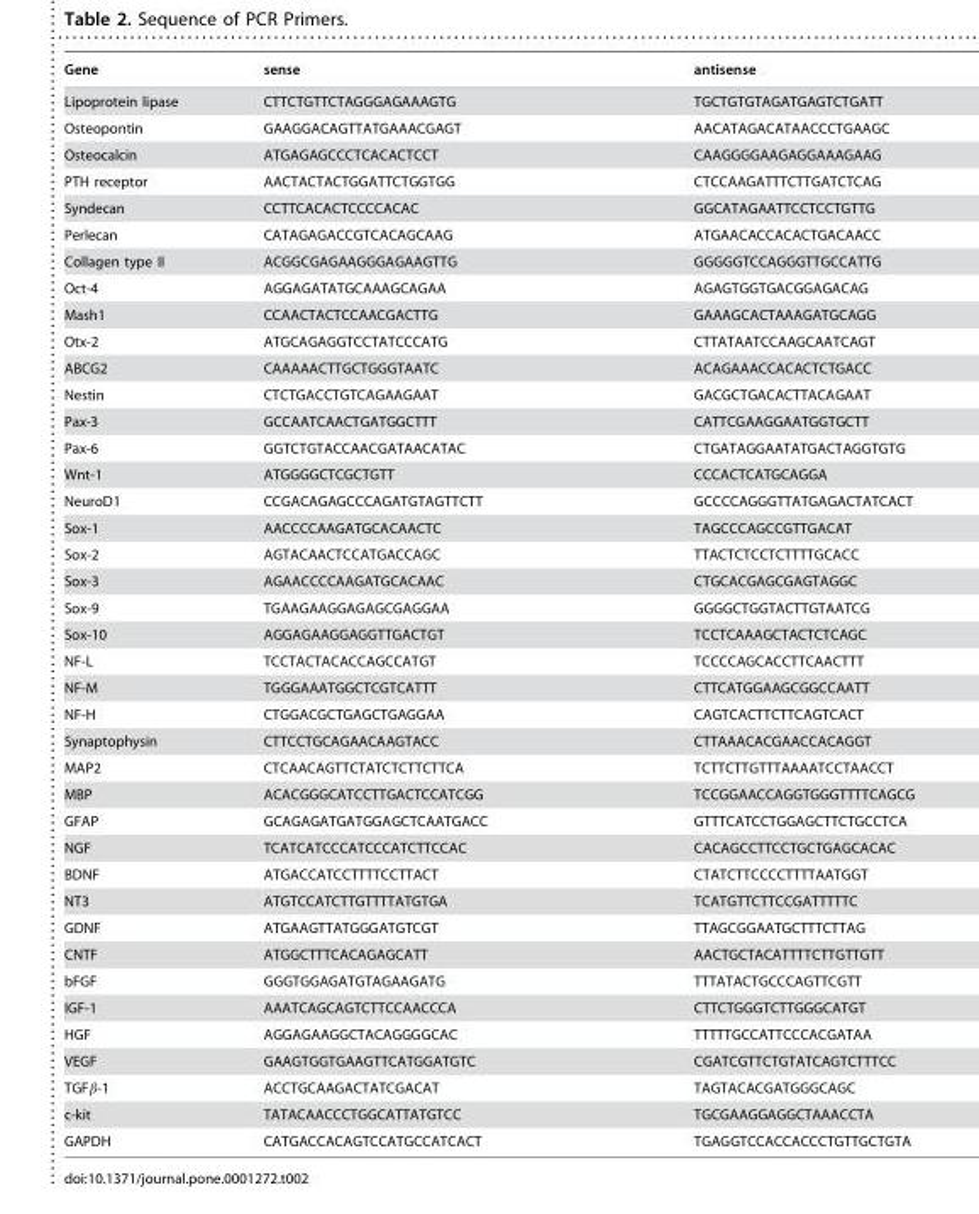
<table><thead><tr><td>Gene</td><td>sense</td><td>antisense</td></tr></thead><tbody><tr><td>Lipoprotein lipase</td><td>CTTCTGTTCTAGGGAGAAAGTG</td><td>TGCTGTGTAGATGAGTCTGATT</td></tr><tr><td>Osteopontin</td><td>GAAGGACAGTTATGAAACGAGT</td><td>AACATAGACATAACCCTGAAGC</td></tr><tr><td>Osteocalcin</td><td>ATGAGAGCCCTCACACTCCT</td><td>CAAGGGGAAGAGGAAAGAAG</td></tr><tr><td>PTH receptor</td><td>AACTACTACTGGATTCTGGTGG</td><td>CTCCAAGATTTCTTGATCTCAG</td></tr><tr><td>Syndecan</td><td>CCTTCACACTCCCCACAC</td><td>GGCATAGAATTCCTCCTGTTG</td></tr><tr><td>Perlecan</td><td>CATAGAGACCGTCACAGCAAG</td><td>ATGAACACCACACTGACAACC</td></tr><tr><td>Collagen type II</td><td>ACGGCGAGAAGGGAGAAGTTG</td><td>GGGGGTCCAGGGTTGCCATTG</td></tr><tr><td>Oct-4</td><td>AGGAGATATGCAAAGCAGAA</td><td>AGAGTGGTGACGGAGACAG</td></tr><tr><td>Mash1</td><td>CCAACTACTCCAACGACTTG</td><td>GAAAGCACTAAAGATGCAGG</td></tr><tr><td>Otx-2</td><td>ATGCAGAGGTCCTATCCCATG</td><td>CTTATAATCCAAGCAATCAGT</td></tr><tr><td>ABCG2</td><td>CAAAAACTTGCTGGGTAATC</td><td>ACAGAAACCACACTCTGACC</td></tr><tr><td>Nestin</td><td>CTCTGACCTGTCAGAAGAAT</td><td>GACGCTGACACTTACAGAAT</td></tr><tr><td>Pax-3</td><td>GCCAATCAACTGATGGCTTT</td><td>CATTCGAAGGAATGGTGCTT</td></tr><tr><td>Pax-6</td><td>GGTCTGTACCAACGATAACATAC</td><td>CTGATAGGAATATGACTAGGTGTG</td></tr><tr><td>Wnt-1</td><td>ATGGGGCTCGCTGTT</td><td>CCCACTCATGCAGGA</td></tr><tr><td>NeuroD1</td><td>CCGACAGAGCCCAGATGTAGTTCTT</td><td>GCCCCAGGGTTATGAGACTATCACT</td></tr><tr><td>Sox-1</td><td>AACCCCAAGATGCACAACTC</td><td>TAGCCCAGCCGTTGACAT</td></tr><tr><td>Sox-2</td><td>AGTACAACTCCATGACCAGC</td><td>TTACTCTCCTCTTTTGCACC</td></tr><tr><td>Sox-3</td><td>AGAACCCCAAGATGCACAAC</td><td>CTGCACGAGCGAGTAGGC</td></tr><tr><td>Sox-9</td><td>TGAAGAAGGAGAGCGAGGAA</td><td>GGGGCTGGTACTTGTAATCG</td></tr><tr><td>Sox-10</td><td>AGGAGAAGGAGGTTGACTGT</td><td>TCCTCAAAGCTACTCTCAGC</td></tr><tr><td>NF-L</td><td>TCCTACTACACCAGCCATGT</td><td>TCCCCAGCACCTTCAACTTT</td></tr><tr><td>NF-M</td><td>TGGGAAATGGCTCGTCATTT</td><td>CTTCATGGAAGCGGCCAATT</td></tr><tr><td>NF-H</td><td>CTGGACGCTGAGCTGAGGAA</td><td>CAGTCACTTCTTCAGTCACT</td></tr><tr><td>Synaptophysin</td><td>CTTCCTGCAGAACAAGTACC</td><td>CTTAAACACGAACCACAGGT</td></tr><tr><td>MAP2</td><td>CTCAACAGTTCTATCTCTTCTTCA</td><td>TCTTCTTGTTTAAAATCCTAACCT</td></tr><tr><td>MBP</td><td>ACACGGGCATCCTTGACTCCATCGG</td><td>TCCGGAACCAGGTGGGTTTTCAGCG</td></tr><tr><td>GFAP</td><td>GCAGAGATGATGGAGCTCAATGACC</td><td>GTTTCATCCTGGAGCTTCTGCCTCA</td></tr><tr><td>NGF</td><td>TCATCATCCCATCCCATCTTCCAC</td><td>CACAGCCTTCCTGCTGAGCACAC</td></tr><tr><td>BDNF</td><td>ATGACCATCCTTTTCCTTACT</td><td>CTATCTTCCCCTTTTAATGGT</td></tr><tr><td>NT3</td><td>ATGTCCATCTTGTTTTATGTGA</td><td>TCATGTTCTTCCGATTTTTC</td></tr><tr><td>GDNF</td><td>ATGAAGTTATGGGATGTCGT</td><td>TTAGCGGAATGCTTTCTTAG</td></tr><tr><td>CNTF</td><td>ATGGCTTTCACAGAGCATT</td><td>AACTGCTACATTTTCTTGTTGTT</td></tr><tr><td>bFGF</td><td>GGGTGGAGATGTAGAAGATG</td><td>TTTATACTGCCCAGTTCGTT</td></tr><tr><td>IGF-1</td><td>AAATCAGCAGTCTTCCAACCCA</td><td>CTTCTGGGTCTTGGGCATGT</td></tr><tr><td>HGF</td><td>AGGAGAAGGCTACAGGGGCAC</td><td>TTTTTGCCATTCCCACGATAA</td></tr><tr><td>VEGF</td><td>GAAGTGGTGAAGTTCATGGATGTC</td><td>CGATCGTTCTGTATCAGTCTTTCC</td></tr><tr><td>TGFβ-1</td><td>ACCTGCAAGACTATCGACAT</td><td>TAGTACACGATGGGCAGC</td></tr><tr><td>c-kit</td><td>TATACAACCCTGGCATTATGTCC</td><td>TGCGAAGGAGGCTAAACCTA</td></tr><tr><td>GAPDH</td><td>CATGACCACAGTCCATGCCATCACT</td><td>TGAGGTCCACCACCCTGTTGCTGTA</td></tr></tbody></table>